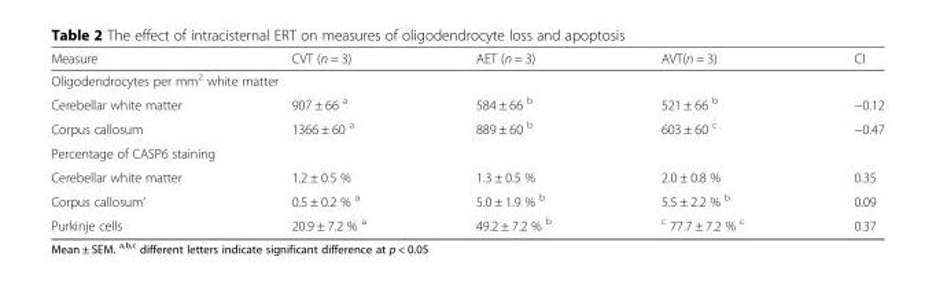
<table><thead><tr><td>Measure</td><td>CVT (n = 3)</td><td>AET (n = 3)</td><td>AVT(n = 3)</td><td>CI</td></tr></thead><tbody><tr><td colspan="5">Oligodendrocytes per mm<sup>2</sup> white matter</td></tr><tr><td>Cerebellar white matter</td><td>907 ± 66 <sup>a</sup></td><td>584 ± 66 <sup>b</sup></td><td>521 ± 66 <sup>b</sup></td><td>−0.12</td></tr><tr><td>Corpus callosum</td><td>1366 ± 60 <sup>a</sup></td><td>889 ± 60 <sup>b</sup></td><td>603 ± 60 <sup>c</sup></td><td>−0.47</td></tr><tr><td colspan="5">Percentage of CASP6 staining</td></tr><tr><td>Cerebellar white matter</td><td>1.2 ± 0.5 %</td><td>1.3 ± 0.5 %</td><td>2.0 ± 0.8 %</td><td>0.35</td></tr><tr><td>Corpus callosum’</td><td>0.5 ± 0.2 % <sup>a</sup></td><td>5.0 ± 1.9 % <sup>b</sup></td><td>5.5 ± 2.2 % <sup>b</sup></td><td>0.09</td></tr><tr><td>Purkinje cells</td><td>20.9 ± 7.2 % <sup>a</sup></td><td>49.2 ± 7.2 % <sup>b</sup></td><td><sup>c</sup> 77.7 ± 7.2 % <sup>c</sup></td><td>0.37</td></tr></tbody></table>